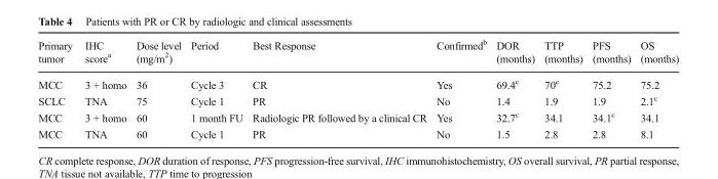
<table><thead><tr><td>Primary tumor</td><td>IHC score<sup>a</sup></td><td>Dose level (mg/m<sup>2</sup>)</td><td>Period</td><td>Best Response</td><td>Confirmed<sup>b</sup></td><td>DOR (months)</td><td>TTP (months)</td><td>PFS (months)</td><td>OS (months)</td></tr></thead><tbody><tr><td>MCC</td><td>3 + homo</td><td>36</td><td>Cycle 3</td><td>CR</td><td>Yes</td><td>69.4<sup>c</sup></td><td>70<sup>c</sup></td><td>75.2</td><td>75.2</td></tr><tr><td>SCLC</td><td>TNA</td><td>75</td><td>Cycle 1</td><td>PR</td><td>No</td><td>1.4</td><td>1.9</td><td>1.9</td><td>2.1<sup>c</sup></td></tr><tr><td>MCC</td><td>3 + homo</td><td>60</td><td>1 month FU</td><td>Radiologic PR followed by a clinical CR</td><td>Yes</td><td>32.7<sup>c</sup></td><td>34.1</td><td>34.1<sup>c</sup></td><td>34.1</td></tr><tr><td>MCC</td><td>TNA</td><td>60</td><td>Cycle 1</td><td>PR</td><td>No</td><td>1.5</td><td>2.8</td><td>2.8</td><td>8.1</td></tr></tbody></table>